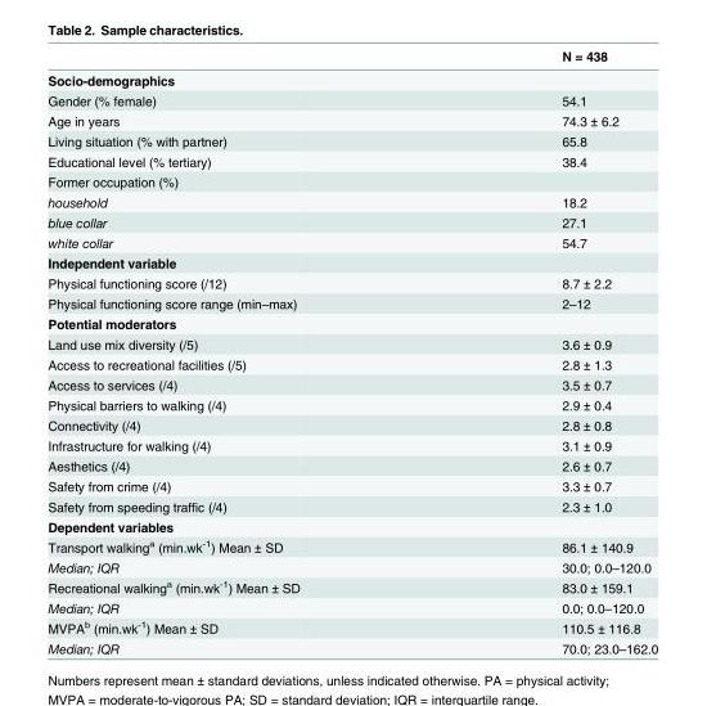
<table><thead><tr><td></td><td>N = 438</td></tr></thead><tbody><tr><td colspan="2">Socio-demographics</td></tr><tr><td>Gender (% female)</td><td>54.1</td></tr><tr><td>Age in years</td><td>74.3 ± 6.2</td></tr><tr><td>Living situation (% with partner)</td><td>65.8</td></tr><tr><td>Educational level (% tertiary)</td><td>38.4</td></tr><tr><td colspan="2">Former occupation (%)</td></tr><tr><td>household</td><td>18.2</td></tr><tr><td>blue collar</td><td>27.1</td></tr><tr><td>white collar</td><td>54.7</td></tr><tr><td colspan="2">Independent variable</td></tr><tr><td>Physical functioning score (/12)</td><td>8.7 ± 2.2</td></tr><tr><td>Physical functioning score range (min–max)</td><td>2–12</td></tr><tr><td colspan="2">Potential moderators</td></tr><tr><td>Land use mix diversity (/5)</td><td>3.6 ± 0.9</td></tr><tr><td>Access to recreational facilities (/5)</td><td>2.8 ± 1.3</td></tr><tr><td>Access to services (/4)</td><td>3.5 ± 0.7</td></tr><tr><td>Physical barriers to walking (/4)</td><td>2.9 ± 0.4</td></tr><tr><td>Connectivity (/4)</td><td>2.8 ± 0.8</td></tr><tr><td>Infrastructure for walking (/4)</td><td>3.1 ± 0.9</td></tr><tr><td>Aesthetics (/4)</td><td>2.6 ± 0.7</td></tr><tr><td>Safety from crime (/4)</td><td>3.3 ± 0.7</td></tr><tr><td>Safety from speeding traffic (/4)</td><td>2.3 ± 1.0</td></tr><tr><td colspan="2">Dependent variables</td></tr><tr><td>Transport walking<sup>a</sup> (min.wk<sup>-1</sup>) Mean ± SD</td><td>86.1 ± 140.9</td></tr><tr><td>Median; IQR</td><td>30.0; 0.0–120.0</td></tr><tr><td>Recreational walking<sup>a</sup> (min.wk<sup>-1</sup>) Mean ± SD</td><td>83.0 ± 159.1</td></tr><tr><td>Median; IQR</td><td>0.0; 0.0–120.0</td></tr><tr><td>MVPA<sup>b</sup> (min.wk<sup>-1</sup>) Mean ± SD</td><td>110.5 ± 116.8</td></tr><tr><td>Median; IQR</td><td>70.0; 23.0–162.0</td></tr></tbody></table>